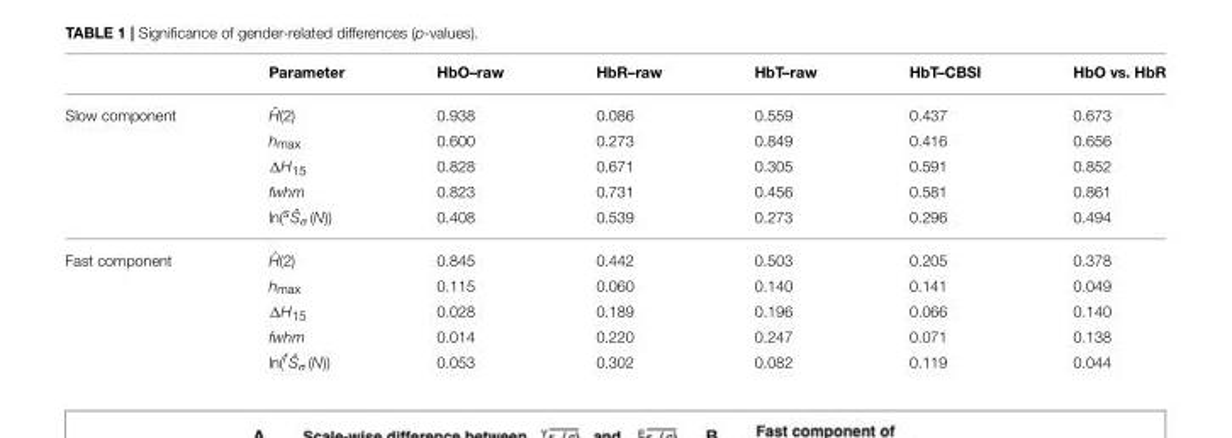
<table><thead><tr><td></td><td>Parameter</td><td>HbO–raw</td><td>HbR–raw</td><td>HbT–raw</td><td>HbT–CBSI</td><td>HbO vs. HbR</td></tr></thead><tbody><tr><td rowspan="5">Slow component</td><td>ˆH(2)</td><td>0.938</td><td>0.086</td><td>0.559</td><td>0.437</td><td>0.673</td></tr><tr><td>h<sub>max</sub></td><td>0.600</td><td>0.273</td><td>0.849</td><td>0.416</td><td>0.656</td></tr><tr><td>ΔH<sub>15</sub></td><td>0.828</td><td>0.671</td><td>0.305</td><td>0.591</td><td>0.852</td></tr><tr><td>fwhm</td><td>0.823</td><td>0.731</td><td>0.456</td><td>0.581</td><td>0.861</td></tr><tr><td>ln(s ˆSσ (N))</td><td>0.408</td><td>0.539</td><td>0.273</td><td>0.296</td><td>0.494</td></tr><tr><td rowspan="5">Fast component</td><td>ˆH(2)</td><td>0.845</td><td>0.442</td><td>0.503</td><td>0.205</td><td>0.378</td></tr><tr><td>h<sub>max</sub></td><td>0.115</td><td>0.060</td><td>0.140</td><td>0.141</td><td>0.049</td></tr><tr><td>ΔH<sub>15</sub></td><td>0.028</td><td>0.189</td><td>0.196</td><td>0.066</td><td>0.140</td></tr><tr><td>fwhm</td><td>0.014</td><td>0.220</td><td>0.247</td><td>0.071</td><td>0.138</td></tr><tr><td>ln(f ˆSσ (N))</td><td>0.053</td><td>0.302</td><td>0.082</td><td>0.119</td><td>0.044</td></tr></tbody></table>